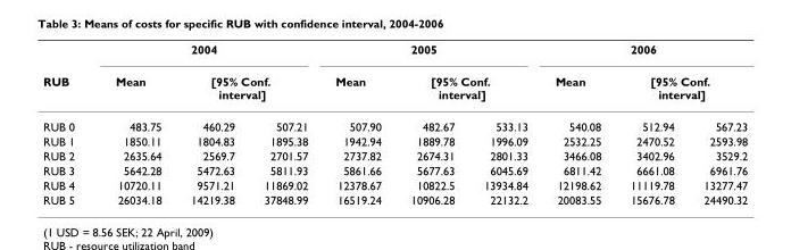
<table><thead><tr><td rowspan="3">RUB RUB 0</td><td colspan="3">2004</td><td colspan="3">2005</td><td colspan="3">2006</td></tr><tr><td rowspan="2">Mean 483.75</td><td colspan="2">[95% Conf. interval]</td><td rowspan="2">Mean 507.90</td><td colspan="2">[95% Conf. interval]</td><td rowspan="2">Mean 540.08</td><td colspan="2">[95% Conf. interval]</td></tr><tr><td>460.29</td><td>507.21</td><td>482.67</td><td>533.13</td><td>512.94</td><td>567.23</td></tr></thead><tbody><tr><td>RUB 1</td><td>1850.11</td><td>1804.83</td><td>1895.38</td><td>1942.94</td><td>1889.78</td><td>1996.09</td><td>2532.25</td><td>2470.52</td><td>2593.98</td></tr><tr><td>RUB 2</td><td>2635.64</td><td>2569.7</td><td>2701.57</td><td>2737.82</td><td>2674.31</td><td>2801.33</td><td>3466.08</td><td>3402.96</td><td>3529.2</td></tr><tr><td>RUB 3</td><td>5642.28</td><td>5472.63</td><td>5811.93</td><td>5861.66</td><td>5677.63</td><td>6045.69</td><td>6811.42</td><td>6661.08</td><td>6961.76</td></tr><tr><td>RUB 4</td><td>10720.11</td><td>9571.21</td><td>11869.02</td><td>12378.67</td><td>10822.5</td><td>13934.84</td><td>12198.62</td><td>11119.78</td><td>13277.47</td></tr><tr><td>RUB 5</td><td>26034.18</td><td>14219.38</td><td>37848.99</td><td>16519.24</td><td>10906.28</td><td>22132.2</td><td>20083.55</td><td>15676.78</td><td>24490.32</td></tr></tbody></table>